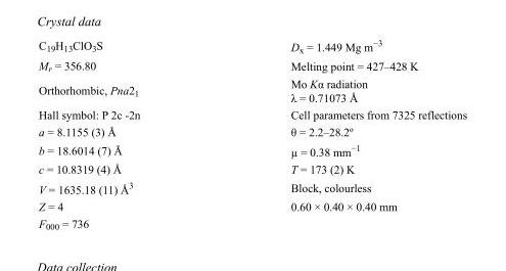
<table><tbody><tr><td>C<sub>19</sub>H<sub>13</sub>ClO<sub>3</sub>S</td><td>D<sub>x</sub> = 1.449 Mg m<sup>−3</sup></td></tr><tr><td>M<sub>r</sub> = 356.80</td><td>Melting point = 427–428 K</td></tr><tr><td>Orthorhombic, Pna2<sub>1</sub></td><td>Mo Kα radiation λ = 0.71073 Å</td></tr><tr><td>Hall symbol: P 2c -2n</td><td>Cell parameters from 7325 reflections</td></tr><tr><td>a = 8.1155 (3) Å</td><td>θ = 2.2–28.2º</td></tr><tr><td>b = 18.6014 (7) Å</td><td>µ = 0.38 mm<sup>−1</sup></td></tr><tr><td>c = 10.8319 (4) Å</td><td>T = 173 (2) K</td></tr><tr><td>V = 1635.18 (11) Å<sup>3</sup></td><td>Block, colourless</td></tr><tr><td>Z = 4</td><td>0.60 × 0.40 × 0.40 mm</td></tr><tr><td>F<sub>000</sub> = 736</td><td></td></tr></tbody></table>